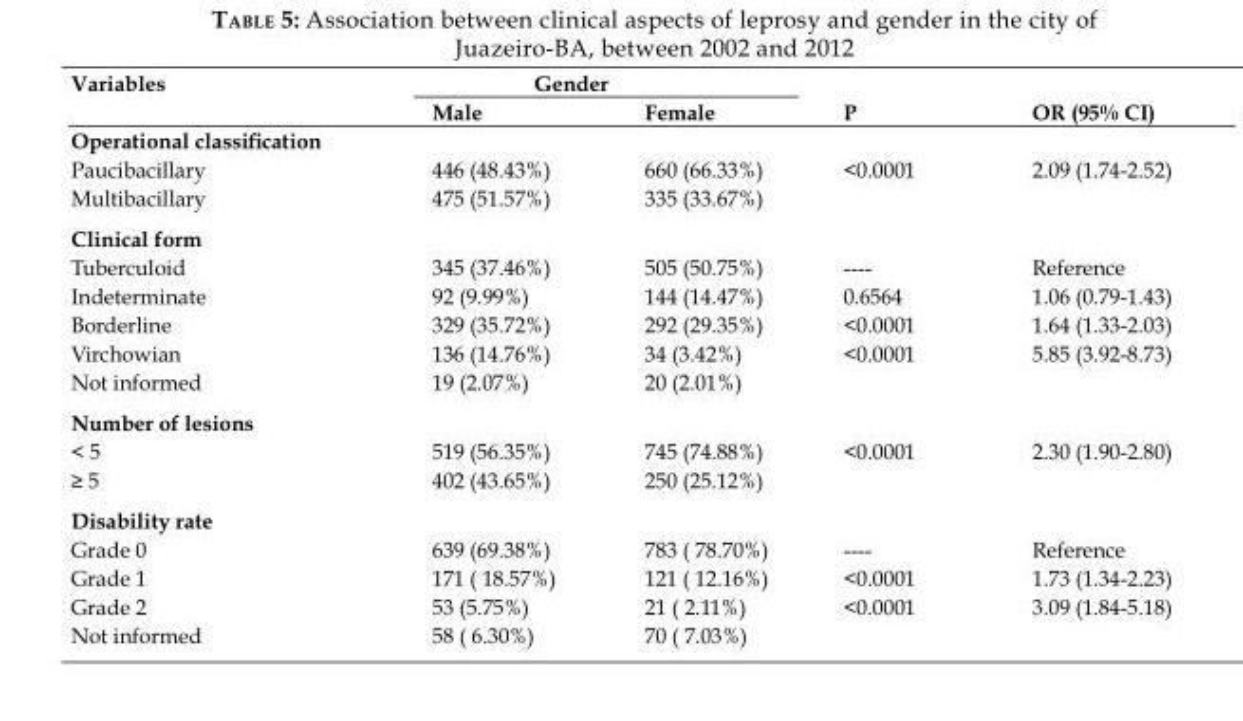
<table><thead><tr><td rowspan="2">Variables</td><td colspan="2">Gender</td><td rowspan="2">P</td><td rowspan="2">OR (95% CI)</td></tr><tr><td>Male</td><td>Female</td></tr></thead><tbody><tr><td colspan="5">Operational classification</td></tr><tr><td>Paucibacillary</td><td>446 (48.43%)</td><td>660 (66.33%)</td><td>&lt;0.0001</td><td>2.09 (1.74-2.52)</td></tr><tr><td>Multibacillary</td><td>475 (51.57%)</td><td>335 (33.67%)</td><td></td><td></td></tr><tr><td colspan="5">Clinical form</td></tr><tr><td>Tuberculoid</td><td>345 (37.46%)</td><td>505 (50.75%)</td><td>----</td><td>Reference</td></tr><tr><td>Indeterminate</td><td>92 (9.99%)</td><td>144 (14.47%)</td><td>0.6564</td><td>1.06 (0.79-1.43)</td></tr><tr><td>Borderline</td><td>329 (35.72%)</td><td>292 (29.35%)</td><td>&lt;0.0001</td><td>1.64 (1.33-2.03)</td></tr><tr><td>Virchowian</td><td>136 (14.76%)</td><td>34 (3.42%)</td><td>&lt;0.0001</td><td>5.85 (3.92-8.73)</td></tr><tr><td>Not informed</td><td>19 (2.07%)</td><td>20 (2.01%)</td><td></td><td></td></tr><tr><td colspan="5">Number of lesions</td></tr><tr><td>&lt; 5</td><td>519 (56.35%)</td><td>745 (74.88%)</td><td>&lt;0.0001</td><td>2.30 (1.90-2.80)</td></tr><tr><td>≥ 5</td><td>402 (43.65%)</td><td>250 (25.12%)</td><td></td><td></td></tr><tr><td colspan="5">Disability rate</td></tr><tr><td>Grade 0</td><td>639 (69.38%)</td><td>783 ( 78.70%)</td><td>----</td><td>Reference</td></tr><tr><td>Grade 1</td><td>171 ( 18.57%)</td><td>121 ( 12.16%)</td><td>&lt;0.0001</td><td>1.73 (1.34-2.23)</td></tr><tr><td>Grade 2</td><td>53 (5.75%)</td><td>21 ( 2.11%)</td><td>&lt;0.0001</td><td>3.09 (1.84-5.18)</td></tr><tr><td>Not informed</td><td>58 ( 6.30%)</td><td>70 ( 7.03%)</td><td></td><td></td></tr></tbody></table>